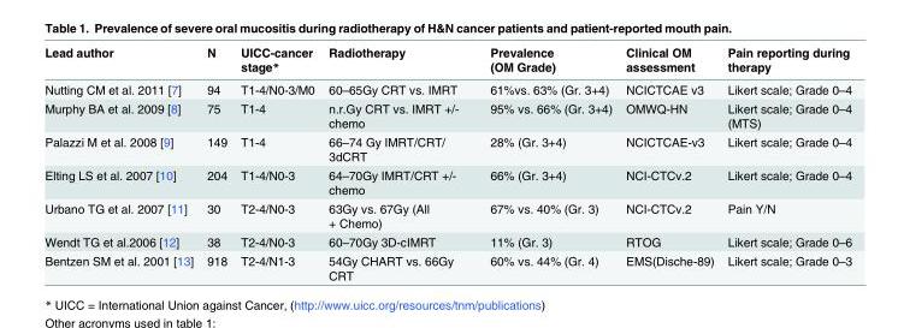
<table><thead><tr><td>Lead author</td><td>N</td><td>UICC-cancer stage*</td><td>Radiotherapy</td><td>Prevalence (OM Grade)</td><td>Clinical OM assessment</td><td>Pain reporting during therapy</td></tr></thead><tbody><tr><td>Nutting CM et al. 2011 [7]</td><td>94</td><td>T1-4/N0-3/M0</td><td>60–65Gy CRT vs. IMRT</td><td>61%vs. 63% (Gr. 3+4)</td><td>NCICTCAE v3</td><td>Likert scale; Grade 0–4</td></tr><tr><td>Murphy BA et al. 2009 [8]</td><td>75</td><td>T1-4</td><td>n.r.Gy CRT vs. IMRT +/- chemo</td><td>95% vs. 66% (Gr. 3+4)</td><td>OMWQ-HN</td><td>Likert scale; Grade 0–4 (MTS)</td></tr><tr><td>Palazzi M et al. 2008 [9]</td><td>149</td><td>T1-4</td><td>66–74 Gy IMRT/CRT/ 3dCRT</td><td>28% (Gr. 3+4)</td><td>NCICTCAE-v3</td><td>Likert scale; Grade 0–4</td></tr><tr><td>Elting LS et al. 2007 [10]</td><td>204</td><td>T1-4/N0-3</td><td>64–70Gy IMRT/CRT +/- chemo</td><td>66% (Gr. 3+4)</td><td>NCI-CTCv.2</td><td>Likert scale; Grade 0–4</td></tr><tr><td>Urbano TG et al. 2007 [11]</td><td>30</td><td>T2-4/N0-3</td><td>63Gy vs. 67Gy (All + Chemo)</td><td>67% vs. 40% (Gr. 3)</td><td>NCI-CTCv.2</td><td>Pain Y/N</td></tr><tr><td>Wendt TG et al.2006 [12]</td><td>38</td><td>T2-4/N0-3</td><td>60–70Gy 3D-cIMRT</td><td>11% (Gr. 3)</td><td>RTOG</td><td>Likert scale; Grade 0–6</td></tr><tr><td>Bentzen SM et al. 2001 [13]</td><td>918</td><td>T2-4/N1-3</td><td>54Gy CHART vs. 66Gy CRT</td><td>60% vs. 44% (Gr. 4)</td><td>EMS(Dische-89)</td><td>Likert scale; Grade 0–3</td></tr></tbody></table>